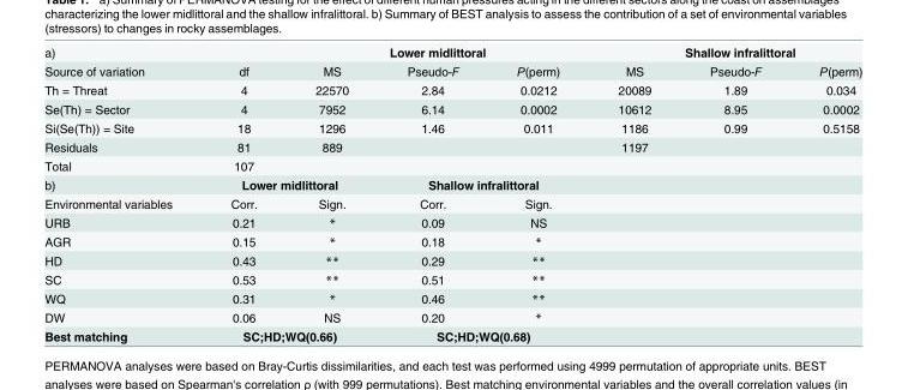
<table><tbody><tr><td>a)</td><td></td><td colspan="3">Lower midlittoral</td><td colspan="3">Shallow infralittoral</td></tr><tr><td>Source of variation</td><td>df</td><td>MS</td><td>Pseudo-F</td><td>P(perm)</td><td>MS</td><td>Pseudo-F</td><td>P(perm)</td></tr><tr><td>Th = Threat</td><td>4</td><td>22570</td><td>2.84</td><td>0.0212</td><td>20089</td><td>1.89</td><td>0.034</td></tr><tr><td>Se(Th) = Sector</td><td>4</td><td>7952</td><td>6.14</td><td>0.0002</td><td>10612</td><td>8.95</td><td>0.0002</td></tr><tr><td>Si(Se(Th)) = Site</td><td>18</td><td>1296</td><td>1.46</td><td>0.011</td><td>1186</td><td>0.99</td><td>0.5158</td></tr><tr><td>Residuals</td><td>81</td><td>889</td><td></td><td></td><td>1197</td><td></td><td></td></tr><tr><td>Total</td><td>107</td><td></td><td></td><td></td><td></td><td></td><td></td></tr><tr><td>b)</td><td colspan="2">Lower midlittoral</td><td colspan="2">Shallow infralittoral</td><td></td><td></td><td></td></tr><tr><td>Environmental variables</td><td>Corr.</td><td>Sign.</td><td>Corr.</td><td>Sign.</td><td></td><td></td><td></td></tr><tr><td>URB</td><td>0.21</td><td>*</td><td>0.09</td><td>NS</td><td></td><td></td><td></td></tr><tr><td>AGR</td><td>0.15</td><td>*</td><td>0.18</td><td>*</td><td></td><td></td><td></td></tr><tr><td>HD</td><td>0.43</td><td>**</td><td>0.29</td><td>**</td><td></td><td></td><td></td></tr><tr><td>SC</td><td>0.53</td><td>**</td><td>0.51</td><td>**</td><td></td><td></td><td></td></tr><tr><td>WQ</td><td>0.31</td><td>*</td><td>0.46</td><td>**</td><td></td><td></td><td></td></tr><tr><td>DW</td><td>0.06</td><td>NS</td><td>0.20</td><td>*</td><td></td><td></td><td></td></tr><tr><td>Best matching</td><td colspan="2">SC;HD;WQ(0.66)</td><td colspan="2">SC;HD;WQ(0.68)</td><td></td><td></td><td></td></tr></tbody></table>